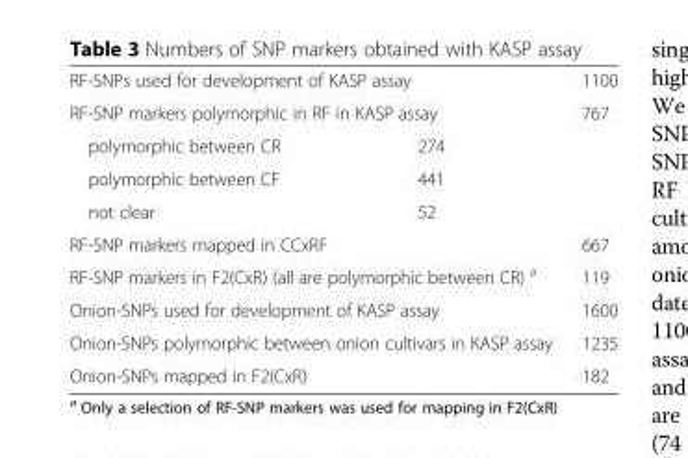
<table><tbody><tr><td colspan="2">RF-SNPs used for development of KASP assay</td><td>1100</td></tr><tr><td colspan="2">RF-SNP markers polymorphic in RF in KASP assay</td><td>767</td></tr><tr><td>polymorphic between CR</td><td>274</td><td></td></tr><tr><td>polymorphic between CF</td><td>441</td><td></td></tr><tr><td>not clear</td><td>52</td><td></td></tr><tr><td colspan="2">RF-SNP markers mapped in CCxRF</td><td>667</td></tr><tr><td colspan="2">RF-SNP markers in F2(CxR) (all are polymorphic between CR) <sup>a</sup></td><td>119</td></tr><tr><td colspan="2">Onion-SNPs used for development of KASP assay</td><td>1600</td></tr><tr><td colspan="2">Onion-SNPs polymorphic between onion cultivars in KASP assay</td><td>1235</td></tr><tr><td colspan="2">Onion-SNPs mapped in F2(CxR)</td><td>182</td></tr></tbody></table>